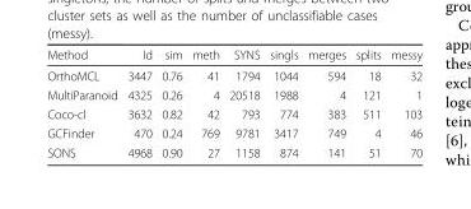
<table><thead><tr><td>Method</td><td>Id</td><td>sim</td><td>meth</td><td>SYNS</td><td>singls</td><td>merges</td><td>splits</td><td>messy</td></tr></thead><tbody><tr><td>OrthoMCL</td><td>3447</td><td>0.76</td><td>41</td><td>1794</td><td>1044</td><td>594</td><td>18</td><td>32</td></tr><tr><td>MultiParanoid</td><td>4325</td><td>0.26</td><td>4</td><td>20518</td><td>1988</td><td>4</td><td>121</td><td>1</td></tr><tr><td>Coco-cl</td><td>3632</td><td>0.82</td><td>42</td><td>793</td><td>774</td><td>383</td><td>511</td><td>103</td></tr><tr><td>GCFinder</td><td>470</td><td>0.24</td><td>769</td><td>9781</td><td>3417</td><td>749</td><td>4</td><td>46</td></tr><tr><td>SONS</td><td>4968</td><td>0.90</td><td>27</td><td>1158</td><td>874</td><td>141</td><td>51</td><td>70</td></tr></tbody></table>